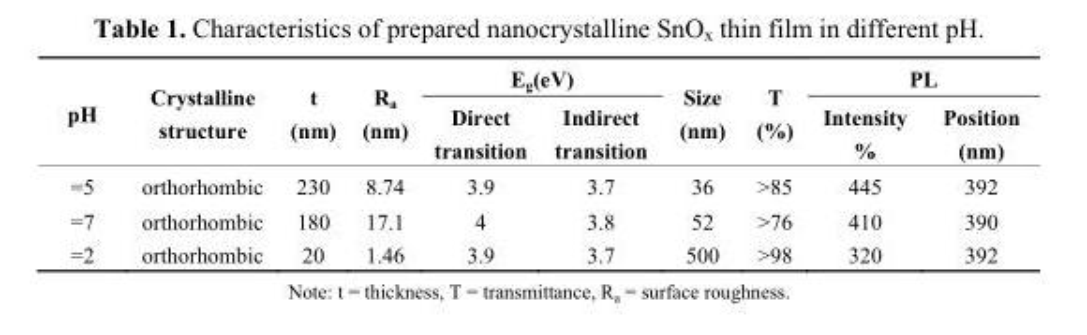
<table><thead><tr><td rowspan="2">pH</td><td rowspan="2">Crystalline structure</td><td rowspan="2">t (nm)</td><td rowspan="2">R<sub>a</sub> (nm)</td><td colspan="2">E<sub>g</sub>(eV)</td><td rowspan="2">Size (nm)</td><td rowspan="2">T (%)</td><td colspan="2">PL</td></tr><tr><td>Direct transition</td><td>Indirect transition</td><td>Intensity %</td><td>Position (nm)</td></tr></thead><tbody><tr><td>=5</td><td>orthorhombic</td><td>230</td><td>8.74</td><td>3.9</td><td>3.7</td><td>36</td><td>&gt;85</td><td>445</td><td>392</td></tr><tr><td>=7</td><td>orthorhombic</td><td>180</td><td>17.1</td><td>4</td><td>3.8</td><td>52</td><td>&gt;76</td><td>410</td><td>390</td></tr><tr><td>=2</td><td>orthorhombic</td><td>20</td><td>1.46</td><td>3.9</td><td>3.7</td><td>500</td><td>&gt;98</td><td>320</td><td>392</td></tr></tbody></table>